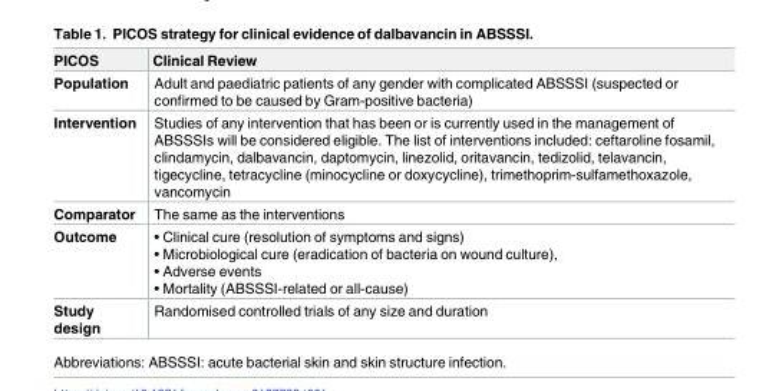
<table><thead><tr><td>PICOS</td><td>Clinical Review</td></tr></thead><tbody><tr><td>Population</td><td>Adult and paediatric patients of any gender with complicated ABSSSI (suspected or confirmed to be caused by Gram-positive bacteria)</td></tr><tr><td>Intervention</td><td>Studies of any intervention that has been or is currently used in the management of ABSSSIs will be considered eligible. The list of interventions included: ceftaroline fosamil, clindamycin, dalbavancin, daptomycin, linezolid, oritavancin, tedizolid, telavancin, tigecycline, tetracycline (minocycline or doxycycline), trimethoprim-sulfamethoxazole, vancomycin</td></tr><tr><td>Comparator</td><td>The same as the interventions</td></tr><tr><td>Outcome</td><td>• Clinical cure (resolution of symptoms and signs) • Microbiological cure (eradication of bacteria on wound culture), • Adverse events • Mortality (ABSSSI-related or all-cause)</td></tr><tr><td>Study design</td><td>Randomised controlled trials of any size and duration</td></tr></tbody></table>